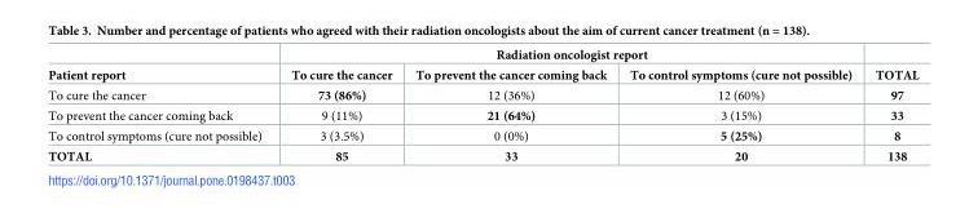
<table><thead><tr><td rowspan="2">Patient report</td><td colspan="3">Radiation oncologist report</td><td rowspan="2">TOTAL</td></tr><tr><td>To cure the cancer</td><td>To prevent the cancer coming back</td><td>To control symptoms (cure not possible)</td></tr></thead><tbody><tr><td>To cure the cancer</td><td>73 (86%)</td><td>12 (36%)</td><td>12 (60%)</td><td>97</td></tr><tr><td>To prevent the cancer coming back</td><td>9 (11%)</td><td>21 (64%)</td><td>3 (15%)</td><td>33</td></tr><tr><td>To control symptoms (cure not possible)</td><td>3 (3.5%)</td><td>0 (0%)</td><td>5 (25%)</td><td>8</td></tr><tr><td>TOTAL</td><td>85</td><td>33</td><td>20</td><td>138</td></tr></tbody></table>